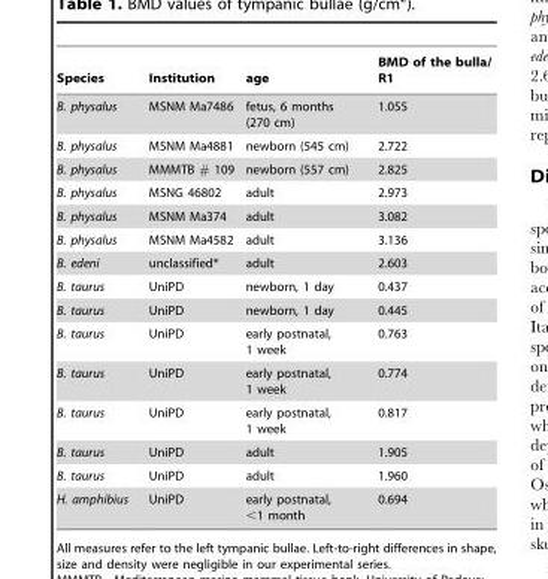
<table><thead><tr><td>Species</td><td>Institution</td><td>age</td><td>BMD of the bulla/ R1</td></tr></thead><tbody><tr><td>B. physalus</td><td>MSNM Ma7486</td><td>fetus, 6 months (270 cm)</td><td>1.055</td></tr><tr><td>B. physalus</td><td>MSNM Ma4881</td><td>newborn (545 cm)</td><td>2.722</td></tr><tr><td>B. physalus</td><td>MMMTB # 109</td><td>newborn (557 cm)</td><td>2.825</td></tr><tr><td>B. physalus</td><td>MSNG 46802</td><td>adult</td><td>2.973</td></tr><tr><td>B. physalus</td><td>MSNM Ma374</td><td>adult</td><td>3.082</td></tr><tr><td>B. physalus</td><td>MSNM Ma4582</td><td>adult</td><td>3.136</td></tr><tr><td>B. edeni</td><td>unclassified*</td><td>adult</td><td>2.603</td></tr><tr><td>B. taurus</td><td>UniPD</td><td>newborn, 1 day</td><td>0.437</td></tr><tr><td>B. taurus</td><td>UniPD</td><td>newborn, 1 day</td><td>0.445</td></tr><tr><td>B. taurus</td><td>UniPD</td><td>early postnatal, 1 week</td><td>0.763</td></tr><tr><td>B. taurus</td><td>UniPD</td><td>early postnatal, 1 week</td><td>0.774</td></tr><tr><td>B. taurus</td><td>UniPD</td><td>early postnatal, 1 week</td><td>0.817</td></tr><tr><td>B. taurus</td><td>UniPD</td><td>adult</td><td>1.905</td></tr><tr><td>B. taurus</td><td>UniPD</td><td>adult</td><td>1.960</td></tr><tr><td>H. amphibius</td><td>UniPD</td><td>early postnatal, &lt;1 month</td><td>0.694</td></tr></tbody></table>